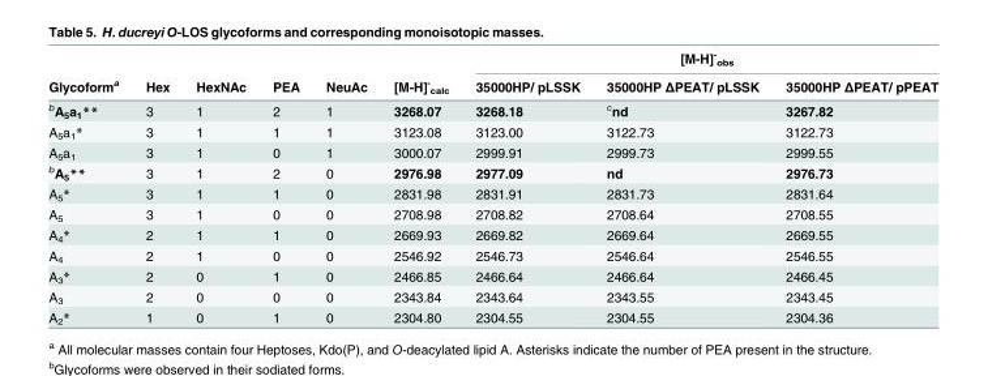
<table><thead><tr><td rowspan="2">Glycoform<sup>a</sup></td><td rowspan="2">Hex</td><td rowspan="2">HexNAc</td><td rowspan="2">PEA</td><td rowspan="2">NeuAc</td><td rowspan="2">[M-H]<sup>-</sup> <sub>calc</sub></td><td colspan="3">[M-H]<sup>-</sup> <sub>obs</sub></td></tr><tr><td>35000HP/ pLSSK</td><td>35000HP ΔPEAT/ pLSSK</td><td>35000HP ΔPEAT/ pPEAT</td></tr></thead><tbody><tr><td><sup>b</sup>A<sub>5</sub>a<sub>1</sub>**</td><td>3</td><td>1</td><td>2</td><td>1</td><td>3268.07</td><td>3268.18</td><td><sup>c</sup>nd</td><td>3267.82</td></tr><tr><td>A<sub>5</sub>a<sub>1</sub>*</td><td>3</td><td>1</td><td>1</td><td>1</td><td>3123.08</td><td>3123.00</td><td>3122.73</td><td>3122.73</td></tr><tr><td>A<sub>5</sub>a<sub>1</sub></td><td>3</td><td>1</td><td>0</td><td>1</td><td>3000.07</td><td>2999.91</td><td>2999.73</td><td>2999.55</td></tr><tr><td><sup>b</sup>A<sub>5</sub>**</td><td>3</td><td>1</td><td>2</td><td>0</td><td>2976.98</td><td>2977.09</td><td>nd</td><td>2976.73</td></tr><tr><td>A<sub>5</sub>*</td><td>3</td><td>1</td><td>1</td><td>0</td><td>2831.98</td><td>2831.91</td><td>2831.73</td><td>2831.64</td></tr><tr><td>A<sub>5</sub></td><td>3</td><td>1</td><td>0</td><td>0</td><td>2708.98</td><td>2708.82</td><td>2708.64</td><td>2708.55</td></tr><tr><td>A<sub>4</sub>*</td><td>2</td><td>1</td><td>1</td><td>0</td><td>2669.93</td><td>2669.82</td><td>2669.64</td><td>2669.55</td></tr><tr><td>A<sub>4</sub></td><td>2</td><td>1</td><td>0</td><td>0</td><td>2546.92</td><td>2546.73</td><td>2546.64</td><td>2546.55</td></tr><tr><td>A<sub>3</sub>*</td><td>2</td><td>0</td><td>1</td><td>0</td><td>2466.85</td><td>2466.64</td><td>2466.64</td><td>2466.45</td></tr><tr><td>A<sub>3</sub></td><td>2</td><td>0</td><td>0</td><td>0</td><td>2343.84</td><td>2343.64</td><td>2343.55</td><td>2343.45</td></tr><tr><td>A<sub>2</sub>*</td><td>1</td><td>0</td><td>1</td><td>0</td><td>2304.80</td><td>2304.55</td><td>2304.55</td><td>2304.36</td></tr></tbody></table>